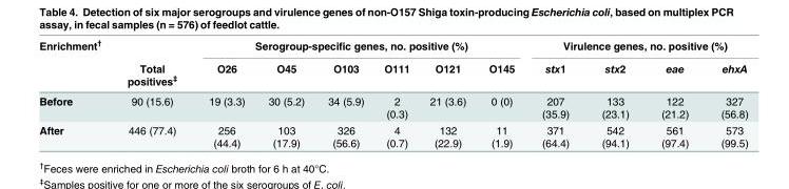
<table><thead><tr><td rowspan="2">Enrichment<sup>†</sup></td><td rowspan="2">Total positives<sup>‡</sup></td><td colspan="6">Serogroup-specific genes, no. positive (%)</td><td colspan="4">Virulence genes, no. positive (%)</td></tr><tr><td>O26</td><td>O45</td><td>O103</td><td>O111</td><td>O121</td><td>O145</td><td>stx1</td><td>stx2</td><td>eae</td><td>ehxA</td></tr></thead><tbody><tr><td>Before</td><td>90 (15.6)</td><td>19 (3.3)</td><td>30 (5.2)</td><td>34 (5.9)</td><td>2 (0.3)</td><td>21 (3.6)</td><td>0 (0)</td><td>207 (35.9)</td><td>133 (23.1)</td><td>122 (21.2)</td><td>327 (56.8)</td></tr><tr><td>After</td><td>446 (77.4)</td><td>256 (44.4)</td><td>103 (17.9)</td><td>326 (56.6)</td><td>4 (0.7)</td><td>132 (22.9)</td><td>11 (1.9)</td><td>371 (64.4)</td><td>542 (94.1)</td><td>561 (97.4)</td><td>573 (99.5)</td></tr></tbody></table>